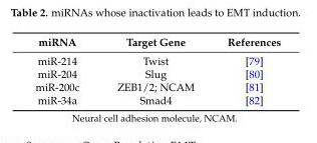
<table><thead><tr><td>miRNA</td><td>Target Gene</td><td>References</td></tr></thead><tbody><tr><td>miR-214</td><td>Twist</td><td>[79]</td></tr><tr><td>miR-204</td><td>Slug</td><td>[80]</td></tr><tr><td>miR-200c</td><td>ZEB1/2; NCAM</td><td>[81]</td></tr><tr><td>miR-34a</td><td>Smad4</td><td>[82]</td></tr></tbody></table>